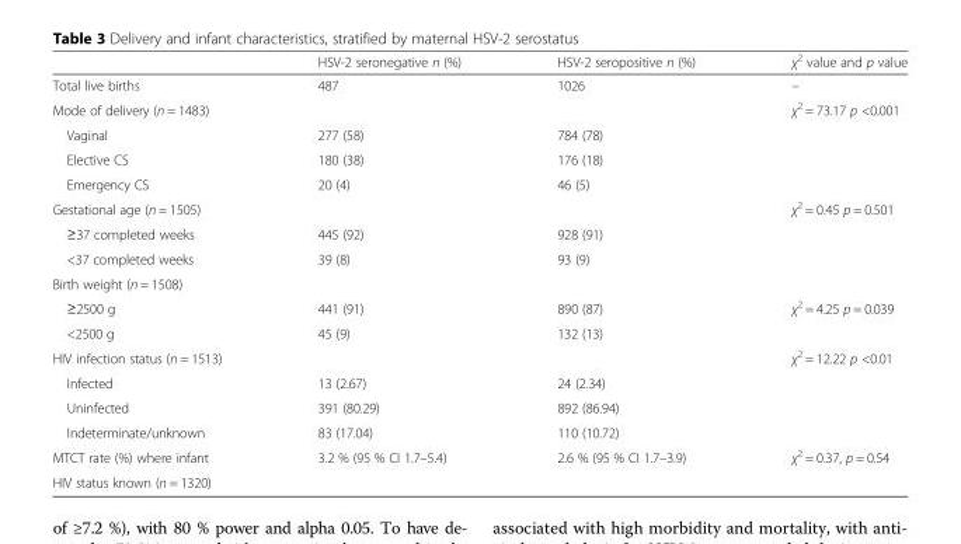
<table><thead><tr><td></td><td>HSV-2 seronegative n (%)</td><td>HSV-2 seropositive n (%)</td><td>χ<sup>2</sup> value and p value</td></tr></thead><tbody><tr><td>Total live births</td><td>487</td><td>1026</td><td>–</td></tr><tr><td>Mode of delivery (n = 1483)</td><td></td><td></td><td>χ<sup>2</sup> = 73.17 p &lt;0.001</td></tr><tr><td>Vaginal</td><td>277 (58)</td><td>784 (78)</td><td></td></tr><tr><td>Elective CS</td><td>180 (38)</td><td>176 (18)</td><td></td></tr><tr><td>Emergency CS</td><td>20 (4)</td><td>46 (5)</td><td></td></tr><tr><td>Gestational age (n = 1505)</td><td></td><td></td><td>χ<sup>2</sup> = 0.45 p = 0.501</td></tr><tr><td>≥37 completed weeks</td><td>445 (92)</td><td>928 (91)</td><td></td></tr><tr><td>&lt;37 completed weeks</td><td>39 (8)</td><td>93 (9)</td><td></td></tr><tr><td colspan="4">Birth weight (n = 1508)</td></tr><tr><td>≥2500 g</td><td>441 (91)</td><td>890 (87)</td><td>χ<sup>2</sup> = 4.25 p = 0.039</td></tr><tr><td>&lt;2500 g</td><td>45 (9)</td><td>132 (13)</td><td></td></tr><tr><td>HIV infection status (n = 1513)</td><td></td><td></td><td>χ<sup>2</sup> = 12.22 p &lt;0.01</td></tr><tr><td>Infected</td><td>13 (2.67)</td><td>24 (2.34)</td><td></td></tr><tr><td>Uninfected</td><td>391 (80.29)</td><td>892 (86.94)</td><td></td></tr><tr><td>Indeterminate/unknown</td><td>83 (17.04)</td><td>110 (10.72)</td><td></td></tr><tr><td>MTCT rate (%) where infant</td><td rowspan="2">3.2 % (95 % CI 1.7–5.4)</td><td rowspan="2">2.6 % (95 % CI 1.7–3.9)</td><td rowspan="2">χ<sup>2</sup> = 0.37, p = 0.54</td></tr><tr><td>HIV status known (n = 1320)</td></tr></tbody></table>